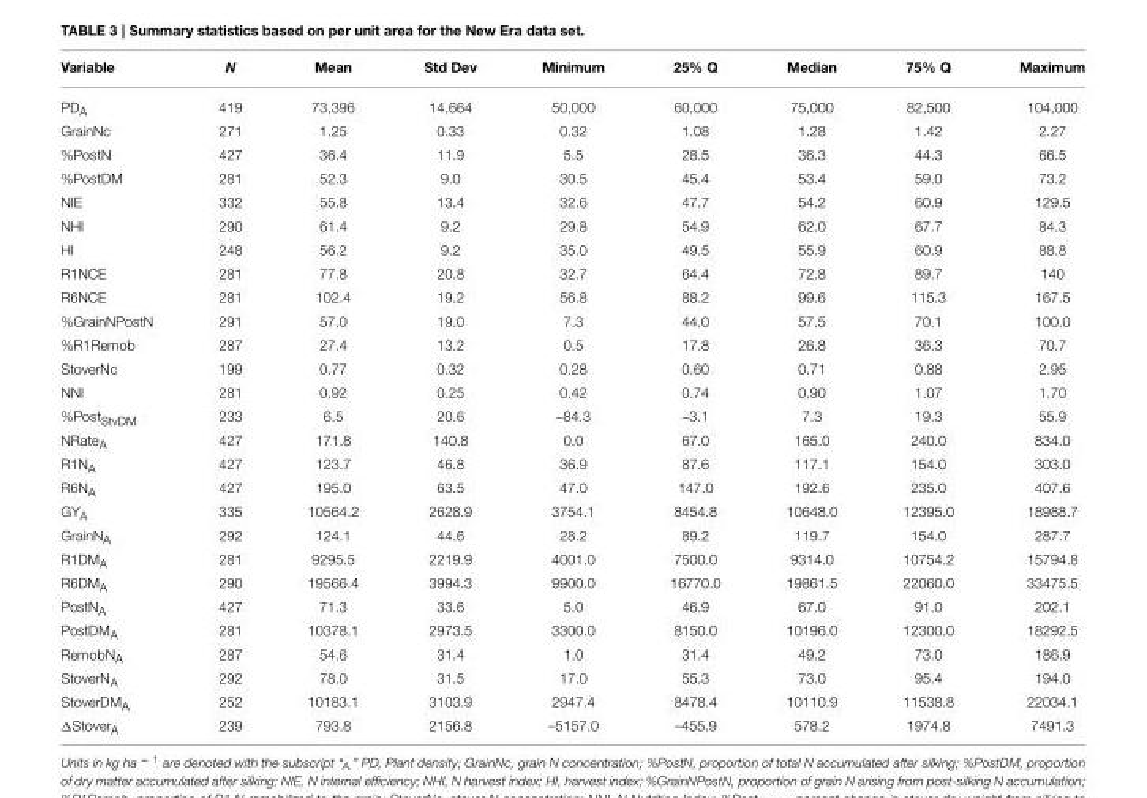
<table><thead><tr><td>Variable</td><td>N</td><td>Mean</td><td>Std Dev</td><td>Minimum</td><td>25% Q</td><td>Median</td><td>75% Q</td><td>Maximum</td></tr></thead><tbody><tr><td>PD<sub>A</sub></td><td>419</td><td>73,396</td><td>14,664</td><td>50,000</td><td>60,000</td><td>75,000</td><td>82,500</td><td>104,000</td></tr><tr><td>GrainNc</td><td>271</td><td>1.25</td><td>0.33</td><td>0.32</td><td>1.08</td><td>1.28</td><td>1.42</td><td>2.27</td></tr><tr><td>%PostN</td><td>427</td><td>36.4</td><td>11.9</td><td>5.5</td><td>28.5</td><td>36.3</td><td>44.3</td><td>66.5</td></tr><tr><td>%PostDM</td><td>281</td><td>52.3</td><td>9.0</td><td>30.5</td><td>45.4</td><td>53.4</td><td>59.0</td><td>73.2</td></tr><tr><td>NIE</td><td>332</td><td>55.8</td><td>13.4</td><td>32.6</td><td>47.7</td><td>54.2</td><td>60.9</td><td>129.5</td></tr><tr><td>NHI</td><td>290</td><td>61.4</td><td>9.2</td><td>29.8</td><td>54.9</td><td>62.0</td><td>67.7</td><td>84.3</td></tr><tr><td>HI</td><td>248</td><td>56.2</td><td>9.2</td><td>35.0</td><td>49.5</td><td>55.9</td><td>60.9</td><td>88.8</td></tr><tr><td>R1NCE</td><td>281</td><td>77.8</td><td>20.8</td><td>32.7</td><td>64.4</td><td>72.8</td><td>89.7</td><td>140</td></tr><tr><td>R6NCE</td><td>281</td><td>102.4</td><td>19.2</td><td>56.8</td><td>88.2</td><td>99.6</td><td>115.3</td><td>167.5</td></tr><tr><td>%GrainNPostN</td><td>291</td><td>57.0</td><td>19.0</td><td>7.3</td><td>44.0</td><td>57.5</td><td>70.1</td><td>100.0</td></tr><tr><td>%R1Remob</td><td>287</td><td>27.4</td><td>13.2</td><td>0.5</td><td>17.8</td><td>26.8</td><td>36.3</td><td>70.7</td></tr><tr><td>StoverNc</td><td>199</td><td>0.77</td><td>0.32</td><td>0.28</td><td>0.60</td><td>0.71</td><td>0.88</td><td>2.95</td></tr><tr><td>NNI</td><td>281</td><td>0.92</td><td>0.25</td><td>0.42</td><td>0.74</td><td>0.90</td><td>1.07</td><td>1.70</td></tr><tr><td>%Post<sub>StvDM</sub></td><td>233</td><td>6.5</td><td>20.6</td><td>–84.3</td><td>–3.1</td><td>7.3</td><td>19.3</td><td>55.9</td></tr><tr><td>NRate<sub>A</sub></td><td>427</td><td>171.8</td><td>140.8</td><td>0.0</td><td>67.0</td><td>165.0</td><td>240.0</td><td>834.0</td></tr><tr><td>R1N<sub>A</sub></td><td>427</td><td>123.7</td><td>46.8</td><td>36.9</td><td>87.6</td><td>117.1</td><td>154.0</td><td>303.0</td></tr><tr><td>R6N<sub>A</sub></td><td>427</td><td>195.0</td><td>63.5</td><td>47.0</td><td>147.0</td><td>192.6</td><td>235.0</td><td>407.6</td></tr><tr><td>GY<sub>A</sub></td><td>335</td><td>10564.2</td><td>2628.9</td><td>3754.1</td><td>8454.8</td><td>10648.0</td><td>12395.0</td><td>18988.7</td></tr><tr><td>GrainN<sub>A</sub></td><td>292</td><td>124.1</td><td>44.6</td><td>28.2</td><td>89.2</td><td>119.7</td><td>154.0</td><td>287.7</td></tr><tr><td>R1DM<sub>A</sub></td><td>281</td><td>9295.5</td><td>2219.9</td><td>4001.0</td><td>7500.0</td><td>9314.0</td><td>10754.2</td><td>15794.8</td></tr><tr><td>R6DM<sub>A</sub></td><td>290</td><td>19566.4</td><td>3994.3</td><td>9900.0</td><td>16770.0</td><td>19861.5</td><td>22060.0</td><td>33475.5</td></tr><tr><td>PostN<sub>A</sub></td><td>427</td><td>71.3</td><td>33.6</td><td>5.0</td><td>46.9</td><td>67.0</td><td>91.0</td><td>202.1</td></tr><tr><td>PostDM<sub>A</sub></td><td>281</td><td>10378.1</td><td>2973.5</td><td>3300.0</td><td>8150.0</td><td>10196.0</td><td>12300.0</td><td>18292.5</td></tr><tr><td>RemobN<sub>A</sub></td><td>287</td><td>54.6</td><td>31.4</td><td>1.0</td><td>31.4</td><td>49.2</td><td>73.0</td><td>186.9</td></tr><tr><td>StoverN<sub>A</sub></td><td>292</td><td>78.0</td><td>31.5</td><td>17.0</td><td>55.3</td><td>73.0</td><td>95.4</td><td>194.0</td></tr><tr><td>StoverDM<sub>A</sub></td><td>252</td><td>10183.1</td><td>3103.9</td><td>2947.4</td><td>8478.4</td><td>10110.9</td><td>11538.8</td><td>22034.1</td></tr><tr><td>ΔStover<sub>A</sub></td><td>239</td><td>793.8</td><td>2156.8</td><td>–5157.0</td><td>–455.9</td><td>578.2</td><td>1974.8</td><td>7491.3</td></tr></tbody></table>